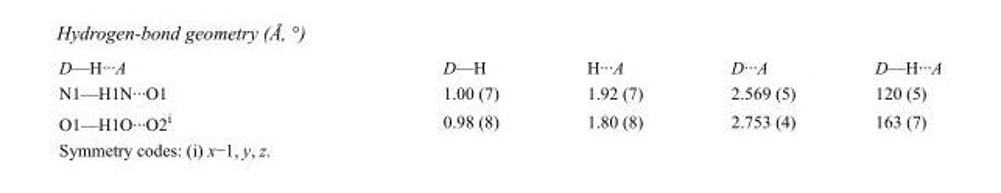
<table><tbody><tr><td>D—H···A</td><td>D—H</td><td>H···A</td><td>D···A</td><td>D—H···A</td></tr><tr><td>N1—H1N···O1</td><td>1.00 (7)</td><td>1.92 (7)</td><td>2.569 (5)</td><td>120 (5)</td></tr><tr><td>O1—H1O···O2<sup>i</sup></td><td>0.98 (8)</td><td>1.80 (8)</td><td>2.753 (4)</td><td>163 (7)</td></tr></tbody></table>